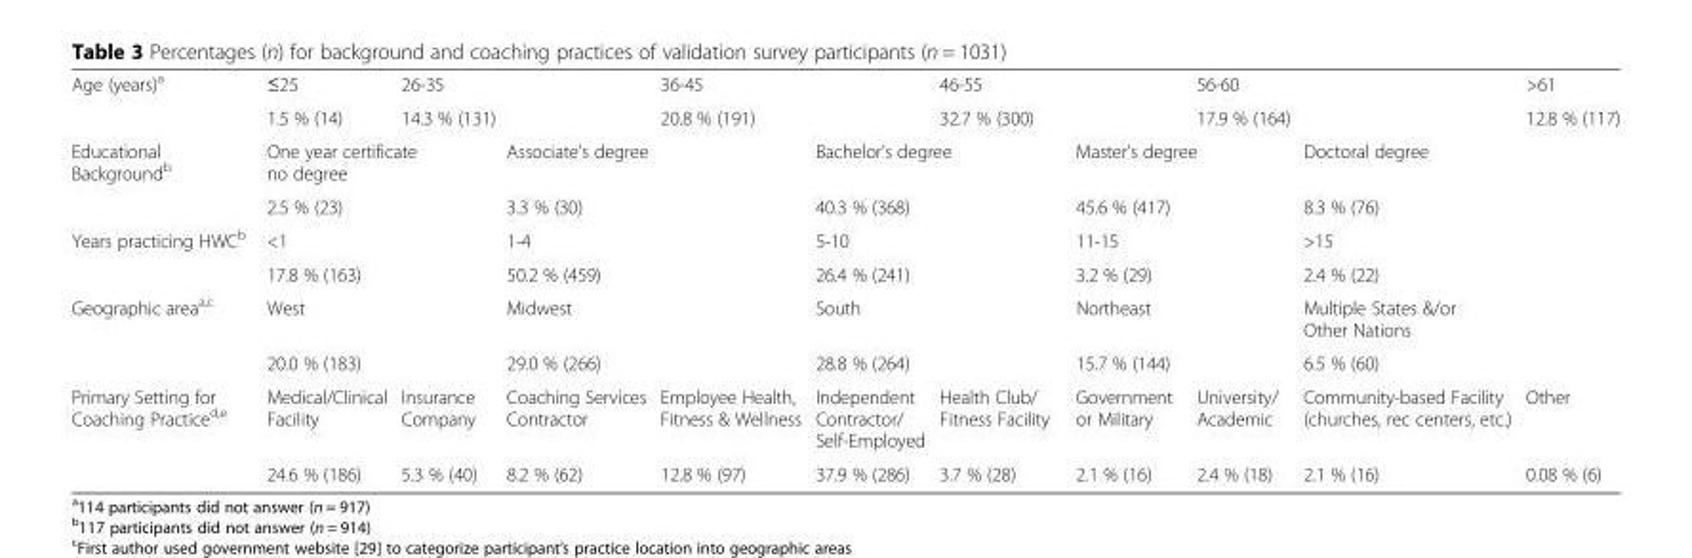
<table><tbody><tr><td rowspan="2">Age (years)<sup>a</sup></td><td>≤25</td><td colspan="2">26-35</td><td colspan="2">36-45</td><td colspan="2">46-55</td><td colspan="2">56-60</td><td>&gt;61</td></tr><tr><td>1.5 % (14)</td><td colspan="2">14.3 % (131)</td><td colspan="2">20.8 % (191)</td><td colspan="2">32.7 % (300)</td><td colspan="2">17.9 % (164)</td><td>12.8 % (117)</td></tr><tr><td rowspan="2">Educational Background<sup>b</sup></td><td colspan="2">One year certificate no degree</td><td colspan="2">Associate’s degree</td><td colspan="2">Bachelor’s degree</td><td colspan="2">Master’s degree</td><td colspan="2">Doctoral degree</td></tr><tr><td colspan="2">2.5 % (23)</td><td colspan="2">3.3 % (30)</td><td colspan="2">40.3 % (368)</td><td colspan="2">45.6 % (417)</td><td colspan="2">8.3 % (76)</td></tr><tr><td rowspan="2">Years practicing HWC<sup>b</sup></td><td colspan="2">&lt;1</td><td colspan="2">1-4</td><td colspan="2">5-10</td><td colspan="2">11-15</td><td colspan="2">&gt;15</td></tr><tr><td colspan="2">17.8 % (163)</td><td colspan="2">50.2 % (459)</td><td colspan="2">26.4 % (241)</td><td colspan="2">3.2 % (29)</td><td colspan="2">2.4 % (22)</td></tr><tr><td rowspan="2">Geographic area<sup>a,c</sup></td><td colspan="2">West</td><td colspan="2">Midwest</td><td colspan="2">South</td><td colspan="2">Northeast</td><td colspan="2">Multiple States &amp;/or Other Nations</td></tr><tr><td colspan="2">20.0 % (183)</td><td colspan="2">29.0 % (266)</td><td colspan="2">28.8 % (264)</td><td colspan="2">15.7 % (144)</td><td colspan="2">6.5 % (60)</td></tr><tr><td rowspan="2">Primary Setting for Coaching Practice<sup>d,e</sup></td><td>Medical/Clinical Facility</td><td>Insurance Company</td><td>Coaching Services Contractor</td><td>Employee Health, Fitness &amp; Wellness</td><td>Independent Contractor/ Self-Employed</td><td>Health Club/ Fitness Facility</td><td>Government or Military</td><td>University/ Academic</td><td>Community-based Facility (churches, rec centers, etc.)</td><td>Other</td></tr><tr><td>24.6 % (186)</td><td>5.3 % (40)</td><td>8.2 % (62)</td><td>12.8 % (97)</td><td>37.9 % (286)</td><td>3.7 % (28)</td><td>2.1 % (16)</td><td>2.4 % (18)</td><td>2.1 % (16)</td><td>0.08 % (6)</td></tr></tbody></table>